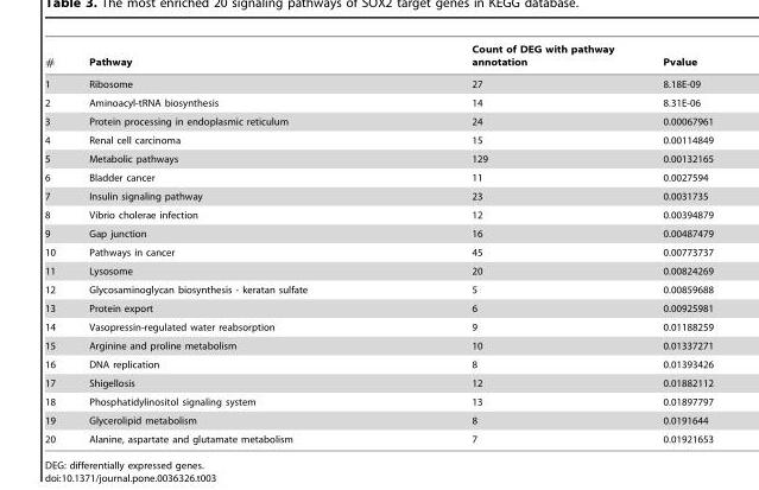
<table><thead><tr><td>#</td><td>Pathway</td><td>Count of DEG with pathway annotation</td><td>Pvalue</td></tr></thead><tbody><tr><td>1</td><td>Ribosome</td><td>27</td><td>8.18E-09</td></tr><tr><td>2</td><td>Aminoacyl-tRNA biosynthesis</td><td>14</td><td>8.31E-06</td></tr><tr><td>3</td><td>Protein processing in endoplasmic reticulum</td><td>24</td><td>0.00067961</td></tr><tr><td>4</td><td>Renal cell carcinoma</td><td>15</td><td>0.00114849</td></tr><tr><td>5</td><td>Metabolic pathways</td><td>129</td><td>0.00132165</td></tr><tr><td>6</td><td>Bladder cancer</td><td>11</td><td>0.0027594</td></tr><tr><td>7</td><td>Insulin signaling pathway</td><td>23</td><td>0.0031735</td></tr><tr><td>8</td><td>Vibrio cholerae infection</td><td>12</td><td>0.00394879</td></tr><tr><td>9</td><td>Gap junction</td><td>16</td><td>0.00487479</td></tr><tr><td>10</td><td>Pathways in cancer</td><td>45</td><td>0.00773737</td></tr><tr><td>11</td><td>Lysosome</td><td>20</td><td>0.00824269</td></tr><tr><td>12</td><td>Glycosaminoglycan biosynthesis - keratan sulfate</td><td>5</td><td>0.00859688</td></tr><tr><td>13</td><td>Protein export</td><td>6</td><td>0.00925981</td></tr><tr><td>14</td><td>Vasopressin-regulated water reabsorption</td><td>9</td><td>0.01188259</td></tr><tr><td>15</td><td>Arginine and proline metabolism</td><td>10</td><td>0.01337271</td></tr><tr><td>16</td><td>DNA replication</td><td>8</td><td>0.01393426</td></tr><tr><td>17</td><td>Shigellosis</td><td>12</td><td>0.01882112</td></tr><tr><td>18</td><td>Phosphatidylinositol signaling system</td><td>13</td><td>0.01897797</td></tr><tr><td>19</td><td>Glycerolipid metabolism</td><td>8</td><td>0.0191644</td></tr><tr><td>20</td><td>Alanine, aspartate and glutamate metabolism</td><td>7</td><td>0.01921653</td></tr></tbody></table>